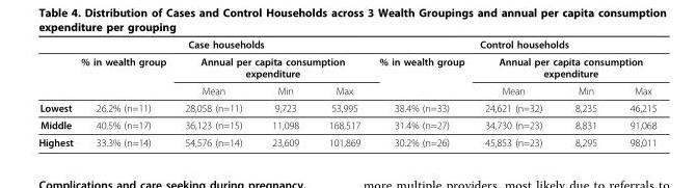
<table><thead><tr><td rowspan="3"></td><td colspan="4">Case households</td><td colspan="4">Control households</td></tr><tr><td rowspan="2">% in wealth group</td><td colspan="3">Annual per capita consumption expenditure</td><td rowspan="2">% in wealth group</td><td colspan="3">Annual per capita consumption expenditure</td></tr><tr><td>Mean</td><td>Min</td><td>Max</td><td>Mean</td><td>Min</td><td>Max</td></tr></thead><tbody><tr><td>Lowest</td><td>26.2% (n=11)</td><td>28,058 (n=11)</td><td>9,723</td><td>53,995</td><td>38.4% (n=33)</td><td>24,621 (n=32)</td><td>8,235</td><td>46,215</td></tr><tr><td>Middle</td><td>40.5% (n=17)</td><td>36,123 (n=15)</td><td>11,098</td><td>168,517</td><td>31.4% (n=27)</td><td>34,730 (n=23)</td><td>8,831</td><td>91,068</td></tr><tr><td>Highest</td><td>33.3% (n=14)</td><td>54,576 (n=14)</td><td>23,609</td><td>101,869</td><td>30.2% (n=26)</td><td>45,853 (n=23)</td><td>8,295</td><td>98,011</td></tr></tbody></table>